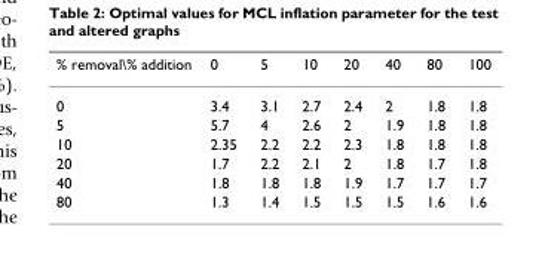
<table><thead><tr><td>% removal\% addition</td><td>0</td><td>5</td><td>10</td><td>20</td><td>40</td><td>80</td><td>100</td></tr></thead><tbody><tr><td>0</td><td>3.4</td><td>3.1</td><td>2.7</td><td>2.4</td><td>2</td><td>1.8</td><td>1.8</td></tr><tr><td>5</td><td>5.7</td><td>4</td><td>2.6</td><td>2</td><td>1.9</td><td>1.8</td><td>1.8</td></tr><tr><td>10</td><td>2.35</td><td>2.2</td><td>2.2</td><td>2.3</td><td>1.8</td><td>1.8</td><td>1.8</td></tr><tr><td>20</td><td>1.7</td><td>2.2</td><td>2.1</td><td>2</td><td>1.8</td><td>1.7</td><td>1.8</td></tr><tr><td>40</td><td>1.8</td><td>1.8</td><td>1.8</td><td>1.9</td><td>1.7</td><td>1.7</td><td>1.7</td></tr><tr><td>80</td><td>1.3</td><td>1.4</td><td>1.5</td><td>1.5</td><td>1.5</td><td>1.6</td><td>1.6</td></tr></tbody></table>